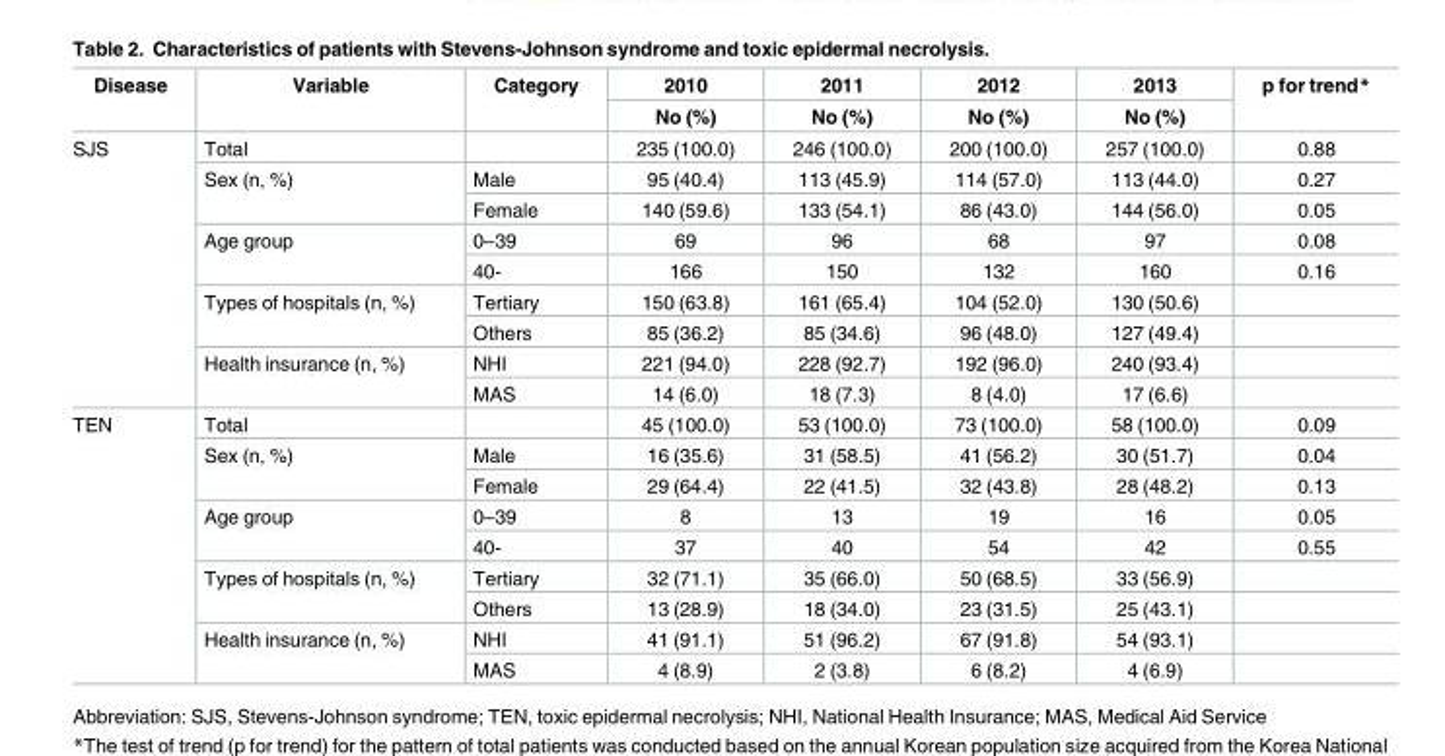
<table><thead><tr><td rowspan="2">Disease</td><td rowspan="2">Variable</td><td rowspan="2">Category</td><td rowspan="2">2010 No (%)</td><td rowspan="2">2011 No (%)</td><td rowspan="2">2012 No (%)</td><td rowspan="2">2013 No (%)</td><td rowspan="2">p for trend*</td></tr><tr></tr></thead><tbody><tr><td rowspan="9">SJS</td><td>Total</td><td></td><td>235 (100.0)</td><td>246 (100.0)</td><td>200 (100.0)</td><td>257 (100.0)</td><td>0.88</td></tr><tr><td rowspan="2">Sex (n, %)</td><td>Male</td><td>95 (40.4)</td><td>113 (45.9)</td><td>114 (57.0)</td><td>113 (44.0)</td><td>0.27</td></tr><tr><td>Female</td><td>140 (59.6)</td><td>133 (54.1)</td><td>86 (43.0)</td><td>144 (56.0)</td><td>0.05</td></tr><tr><td rowspan="2">Age group</td><td>0–39</td><td>69</td><td>96</td><td>68</td><td>97</td><td>0.08</td></tr><tr><td>40-</td><td>166</td><td>150</td><td>132</td><td>160</td><td>0.16</td></tr><tr><td rowspan="2">Types of hospitals (n, %)</td><td>Tertiary</td><td>150 (63.8)</td><td>161 (65.4)</td><td>104 (52.0)</td><td>130 (50.6)</td><td></td></tr><tr><td>Others</td><td>85 (36.2)</td><td>85 (34.6)</td><td>96 (48.0)</td><td>127 (49.4)</td><td></td></tr><tr><td rowspan="2">Health insurance (n, %)</td><td>NHI</td><td>221 (94.0)</td><td>228 (92.7)</td><td>192 (96.0)</td><td>240 (93.4)</td><td></td></tr><tr><td>MAS</td><td>14 (6.0)</td><td>18 (7.3)</td><td>8 (4.0)</td><td>17 (6.6)</td><td></td></tr><tr><td rowspan="9">TEN</td><td>Total</td><td></td><td>45 (100.0)</td><td>53 (100.0)</td><td>73 (100.0)</td><td>58 (100.0)</td><td>0.09</td></tr><tr><td rowspan="2">Sex (n, %)</td><td>Male</td><td>16 (35.6)</td><td>31 (58.5)</td><td>41 (56.2)</td><td>30 (51.7)</td><td>0.04</td></tr><tr><td>Female</td><td>29 (64.4)</td><td>22 (41.5)</td><td>32 (43.8)</td><td>28 (48.2)</td><td>0.13</td></tr><tr><td rowspan="2">Age group</td><td>0–39</td><td>8</td><td>13</td><td>19</td><td>16</td><td>0.05</td></tr><tr><td>40-</td><td>37</td><td>40</td><td>54</td><td>42</td><td>0.55</td></tr><tr><td rowspan="2">Types of hospitals (n, %)</td><td>Tertiary</td><td>32 (71.1)</td><td>35 (66.0)</td><td>50 (68.5)</td><td>33 (56.9)</td><td></td></tr><tr><td>Others</td><td>13 (28.9)</td><td>18 (34.0)</td><td>23 (31.5)</td><td>25 (43.1)</td><td></td></tr><tr><td rowspan="2">Health insurance (n, %)</td><td>NHI</td><td>41 (91.1)</td><td>51 (96.2)</td><td>67 (91.8)</td><td>54 (93.1)</td><td></td></tr><tr><td>MAS</td><td>4 (8.9)</td><td>2 (3.8)</td><td>6 (8.2)</td><td>4 (6.9)</td><td></td></tr></tbody></table>